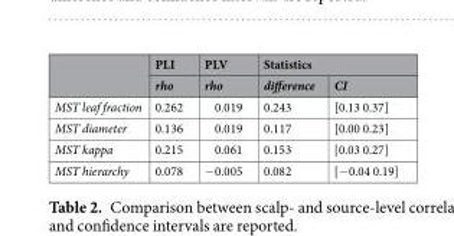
<table><thead><tr><td rowspan="2"></td><td rowspan="2">PLI rho</td><td rowspan="2">PLV rho</td><td colspan="2">Statistics</td></tr><tr><td>difference</td><td>CI</td></tr></thead><tbody><tr><td>MST leaf fraction</td><td>0.262</td><td>0.019</td><td>0.243</td><td>[0.13 0.37]</td></tr><tr><td>MST diameter</td><td>0.136</td><td>0.019</td><td>0.117</td><td>[0.00 0.23]</td></tr><tr><td>MST kappa</td><td>0.215</td><td>0.061</td><td>0.153</td><td>[0.03 0.27]</td></tr><tr><td>MST hierarchy</td><td>0.078</td><td>−0.005</td><td>0.082</td><td>[−0.04 0.19]</td></tr></tbody></table>